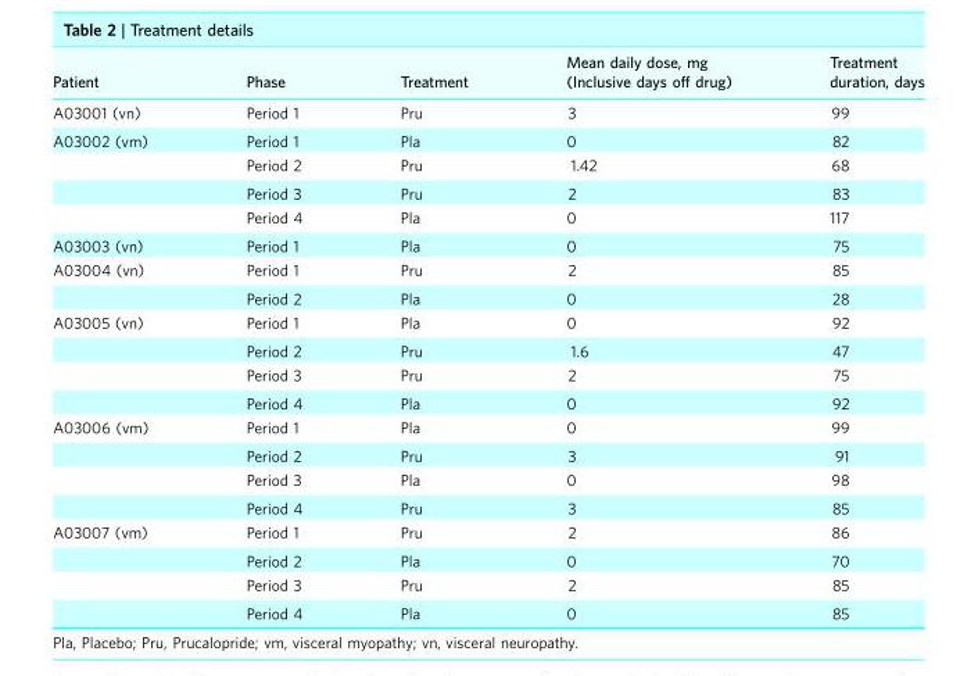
<table><thead><tr><td>Patient</td><td>Phase</td><td>Treatment</td><td>Mean daily dose, mg (Inclusive days off drug)</td><td>Treatment duration, days</td></tr></thead><tbody><tr><td>A03001 (vn)</td><td>Period 1</td><td>Pru</td><td>3</td><td>99</td></tr><tr><td rowspan="4">A03002 (vm)</td><td>Period 1</td><td>Pla</td><td>0</td><td>82</td></tr><tr><td>Period 2</td><td>Pru</td><td>1.42</td><td>68</td></tr><tr><td>Period 3</td><td>Pru</td><td>2</td><td>83</td></tr><tr><td>Period 4</td><td>Pla</td><td>0</td><td>117</td></tr><tr><td>A03003 (vn)</td><td>Period 1</td><td>Pla</td><td>0</td><td>75</td></tr><tr><td rowspan="2">A03004 (vn)</td><td>Period 1</td><td>Pru</td><td>2</td><td>85</td></tr><tr><td>Period 2</td><td>Pla</td><td>0</td><td>28</td></tr><tr><td rowspan="4">A03005 (vn)</td><td>Period 1</td><td>Pla</td><td>0</td><td>92</td></tr><tr><td>Period 2</td><td>Pru</td><td>1.6</td><td>47</td></tr><tr><td>Period 3</td><td>Pru</td><td>2</td><td>75</td></tr><tr><td>Period 4</td><td>Pla</td><td>0</td><td>92</td></tr><tr><td rowspan="4">A03006 (vm)</td><td>Period 1</td><td>Pla</td><td>0</td><td>99</td></tr><tr><td>Period 2</td><td>Pru</td><td>3</td><td>91</td></tr><tr><td>Period 3</td><td>Pla</td><td>0</td><td>98</td></tr><tr><td>Period 4</td><td>Pru</td><td>3</td><td>85</td></tr><tr><td rowspan="4">A03007 (vm)</td><td>Period 1</td><td>Pru</td><td>2</td><td>86</td></tr><tr><td>Period 2</td><td>Pla</td><td>0</td><td>70</td></tr><tr><td>Period 3</td><td>Pru</td><td>2</td><td>85</td></tr><tr><td>Period 4</td><td>Pla</td><td>0</td><td>85</td></tr></tbody></table>